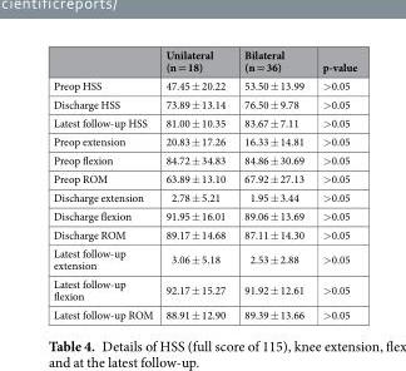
<table><thead><tr><td></td><td>Unilateral (n = 18)</td><td>Bilateral (n = 36)</td><td>p-value</td></tr></thead><tbody><tr><td>Preop HSS</td><td>47.45 ± 20.22</td><td>53.50 ± 13.99</td><td>&gt;0.05</td></tr><tr><td>Discharge HSS</td><td>73.89 ± 13.14</td><td>76.50 ± 9.78</td><td>&gt;0.05</td></tr><tr><td>Latest follow-up HSS</td><td>81.00 ± 10.35</td><td>83.67 ± 7.11</td><td>&gt;0.05</td></tr><tr><td>Preop extension</td><td>20.83 ± 17.26</td><td>16.33 ± 14.81</td><td>&gt;0.05</td></tr><tr><td>Preop flexion</td><td>84.72 ± 34.83</td><td>84.86 ± 30.69</td><td>&gt;0.05</td></tr><tr><td>Preop ROM</td><td>63.89 ± 13.10</td><td>67.92 ± 27.13</td><td>&gt;0.05</td></tr><tr><td>Discharge extension</td><td>2.78 ± 5.21</td><td>1.95 ± 3.44</td><td>&gt;0.05</td></tr><tr><td>Discharge flexion</td><td>91.95 ± 16.01</td><td>89.06 ± 13.69</td><td>&gt;0.05</td></tr><tr><td>Discharge ROM</td><td>89.17 ± 14.68</td><td>87.11 ± 14.30</td><td>&gt;0.05</td></tr><tr><td>Latest follow-up extension</td><td>3.06 ± 5.18</td><td>2.53 ± 2.88</td><td>&gt;0.05</td></tr><tr><td>Latest follow-up flexion</td><td>92.17 ± 15.27</td><td>91.92 ± 12.61</td><td>&gt;0.05</td></tr><tr><td>Latest follow-up ROM</td><td>88.91 ± 12.90</td><td>89.39 ± 13.66</td><td>&gt;0.05</td></tr></tbody></table>